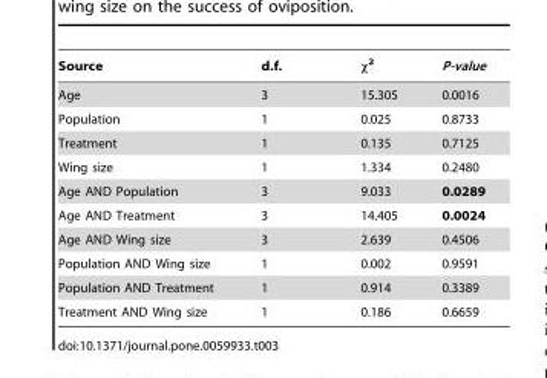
<table><thead><tr><td>Source</td><td>d.f.</td><td>x2</td><td>P-value</td></tr></thead><tbody><tr><td>Age</td><td>3</td><td>15.305</td><td>0.0016</td></tr><tr><td>Population</td><td>1</td><td>0.025</td><td>0.8733</td></tr><tr><td>Treatment</td><td>1</td><td>0.135</td><td>0.7125</td></tr><tr><td>Wing size</td><td>1</td><td>1.334</td><td>0.2480</td></tr><tr><td>Age AND Population</td><td>3</td><td>9.033</td><td>0.0289</td></tr><tr><td>Age AND Treatment</td><td>3</td><td>14.405</td><td>0.0024</td></tr><tr><td>Age AND Wing size</td><td>3</td><td>2.639</td><td>0.4506</td></tr><tr><td>Population AND Wing size</td><td>1</td><td>0.002</td><td>0.9591</td></tr><tr><td>Population AND Treatment</td><td>1</td><td>0.914</td><td>0.3389</td></tr><tr><td>Treatment AND Wing size</td><td>1</td><td>0.186</td><td>0.6659</td></tr></tbody></table>